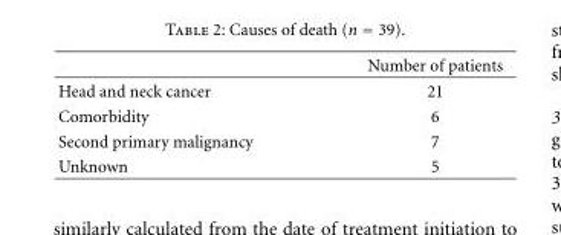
<table><thead><tr><td></td><td>Number of patients</td></tr></thead><tbody><tr><td>Head and neck cancer</td><td>21</td></tr><tr><td>Comorbidity</td><td>6</td></tr><tr><td>Second primary malignancy</td><td>7</td></tr><tr><td>Unknown</td><td>5</td></tr></tbody></table>